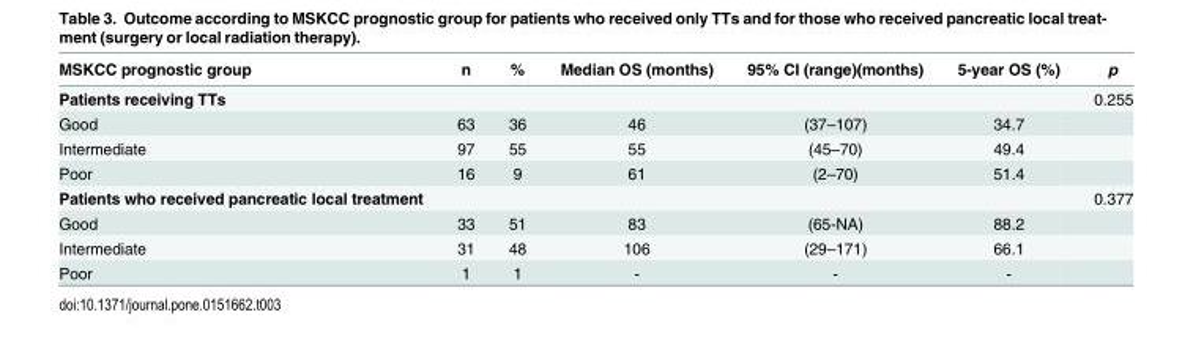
<table><thead><tr><td>MSKCC prognostic group</td><td>n</td><td>%</td><td>Median OS (months)</td><td>95% CI (range)(months)</td><td>5-year OS (%)</td><td>p</td></tr></thead><tbody><tr><td>Patients receiving TTs</td><td></td><td></td><td></td><td></td><td></td><td>0.255</td></tr><tr><td>Good</td><td>63</td><td>36</td><td>46</td><td>(37–107)</td><td>34.7</td><td></td></tr><tr><td>Intermediate</td><td>97</td><td>55</td><td>55</td><td>(45–70)</td><td>49.4</td><td></td></tr><tr><td>Poor</td><td>16</td><td>9</td><td>61</td><td>(2–70)</td><td>51.4</td><td></td></tr><tr><td>Patients who received pancreatic local treatment</td><td></td><td></td><td></td><td></td><td></td><td>0.377</td></tr><tr><td>Good</td><td>33</td><td>51</td><td>83</td><td>(65-NA)</td><td>88.2</td><td></td></tr><tr><td>Intermediate</td><td>31</td><td>48</td><td>106</td><td>(29–171)</td><td>66.1</td><td></td></tr><tr><td>Poor</td><td>1</td><td>1</td><td>-</td><td>-</td><td>-</td><td></td></tr></tbody></table>